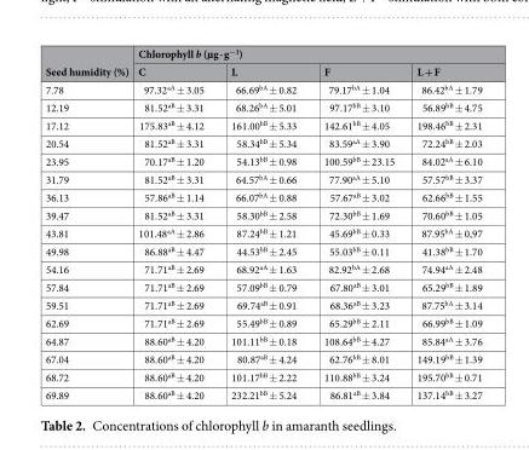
<table><thead><tr><td rowspan="2">Seed humidity (%)</td><td colspan="4">Chlorophyll b (µg · g<sup>−1</sup>)</td></tr><tr><td>C</td><td>L</td><td>F</td><td>L + F</td></tr></thead><tbody><tr><td>7.78</td><td>97.32<sup>aA</sup> ± 3.05</td><td>66.69<sup>bA</sup> ± 0.82</td><td>79.17<sup>bA</sup> ± 1.04</td><td>86.42<sup>bA</sup> ± 1.79</td></tr><tr><td>12.19</td><td>81.52<sup>aB</sup> ± 3.31</td><td>68.26<sup>bA</sup> ± 5.01</td><td>97.17<sup>bB</sup> ± 3.10</td><td>56.89<sup>bB</sup> ± 4.75</td></tr><tr><td>17.12</td><td>175.83<sup>aB</sup> ± 4.12</td><td>161.00<sup>bB</sup> ± 5.33</td><td>142.61<sup>bB</sup> ± 4.05</td><td>198.46<sup>bB</sup> ± 2.31</td></tr><tr><td>20.54</td><td>81.52<sup>aB</sup> ± 3.31</td><td>58.34<sup>bB</sup> ± 5.34</td><td>83.59<sup>aA</sup> ± 3.90</td><td>72.24<sup>bB</sup> ± 2.03</td></tr><tr><td>23.95</td><td>70.17<sup>aB</sup> ± 1.20</td><td>54.13<sup>bB</sup> ± 0.98</td><td>100.59<sup>bB</sup> ± 23.15</td><td>84.02<sup>aA</sup> ± 6.10</td></tr><tr><td>31.79</td><td>81.52<sup>aB</sup> ± 3.31</td><td>64.57<sup>bA</sup> ± 0.66</td><td>77.90<sup>aA</sup> ± 5.10</td><td>57.57<sup>bB</sup> ± 3.37</td></tr><tr><td>36.13</td><td>57.86<sup>aB</sup> ± 1.14</td><td>66.07<sup>bA</sup> ± 0.88</td><td>57.67<sup>aB</sup> ± 3.02</td><td>62.66<sup>bB</sup> ± 1.55</td></tr><tr><td>39.47</td><td>81.52<sup>aB</sup> ± 3.31</td><td>58.30<sup>bB</sup> ± 2.58</td><td>72.30<sup>bB</sup> ± 1.69</td><td>70.60<sup>bB</sup> ± 1.05</td></tr><tr><td>43.81</td><td>101.48<sup>aA</sup> ± 2.86</td><td>87.24<sup>bB</sup> ± 1.21</td><td>45.69<sup>bB</sup> ± 0.33</td><td>87.95<sup>bA</sup> ± 0,97</td></tr><tr><td>49.98</td><td>86.88<sup>aB</sup> ± 4.47</td><td>44.53<sup>bB</sup> ± 2.45</td><td>55.03<sup>bB</sup> ± 0.11</td><td>41.38<sup>bB</sup> ± 1.70</td></tr><tr><td>54.16</td><td>71.71<sup>aB</sup> ± 2.69</td><td>68.92<sup>aA</sup> ± 1.63</td><td>82.92<sup>bA</sup> ± 2.68</td><td>74.94<sup>aA</sup> ± 2.48</td></tr><tr><td>57.84</td><td>71.71<sup>aB</sup> ± 2.69</td><td>57.09<sup>bB</sup> ± 0.79</td><td>67.80<sup>aB</sup> ± 3.01</td><td>65.29<sup>bB</sup> ± 1.89</td></tr><tr><td>59.51</td><td>71.71<sup>aB</sup> ± 2.69</td><td>69.74<sup>aB</sup> ± 0.91</td><td>68.36<sup>aB</sup> ± 3.23</td><td>87.75<sup>bA</sup> ± 3.14</td></tr><tr><td>62.69</td><td>71.71<sup>aB</sup> ± 2.69</td><td>55.49<sup>bB</sup> ± 0.89</td><td>65.29<sup>bB</sup> ± 2.11</td><td>66.99<sup>bB</sup> ± 1.09</td></tr><tr><td>64.87</td><td>88.60<sup>aB</sup> ± 4.20</td><td>101.11<sup>bB</sup> ± 0.18</td><td>108.64<sup>bB</sup> ± 4.27</td><td>85.84<sup>aA</sup> ± 3.76</td></tr><tr><td>67.04</td><td>88.60<sup>aB</sup> ± 4.20</td><td>80.87<sup>aB</sup> ± 4.24</td><td>62.76<sup>bB</sup> ± 8.01</td><td>149.19<sup>bB</sup> ± 1.39</td></tr><tr><td>68.72</td><td>88.60<sup>aB</sup> ± 4.20</td><td>101.17<sup>bB</sup> ± 2.22</td><td>110.88<sup>bB</sup> ± 3.24</td><td>195.70<sup>bB</sup> ± 0.71</td></tr><tr><td>69.89</td><td>88.60<sup>aB</sup> ± 4.20</td><td>232.21<sup>bB</sup> ± 5.24</td><td>86.81<sup>aB</sup> ± 3.84</td><td>137.14<sup>bB</sup> ± 3.27</td></tr></tbody></table>